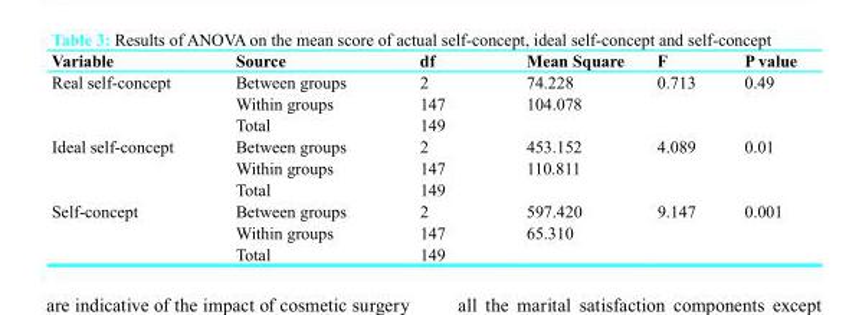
<table><thead><tr><td>Variable</td><td>Source</td><td>df</td><td>Mean Square</td><td>F</td><td>P value</td></tr></thead><tbody><tr><td rowspan="3">Real self-concept</td><td>Between groups</td><td>2</td><td>74.228</td><td rowspan="3">0.713</td><td rowspan="3">0.49</td></tr><tr><td>Within groups</td><td>147</td><td>104.078</td></tr><tr><td>Total</td><td>149</td><td></td></tr><tr><td rowspan="3">Ideal self-concept</td><td>Between groups</td><td>2</td><td>453.152</td><td rowspan="3">4.089</td><td rowspan="3">0.01</td></tr><tr><td>Within groups</td><td>147</td><td>110.811</td></tr><tr><td>Total</td><td>149</td><td></td></tr><tr><td rowspan="3">Self-concept</td><td>Between groups</td><td>2</td><td>597.420</td><td rowspan="3">9.147</td><td rowspan="3">0.001</td></tr><tr><td>Within groups</td><td>147</td><td>65.310</td></tr><tr><td>Total</td><td>149</td><td></td></tr></tbody></table>